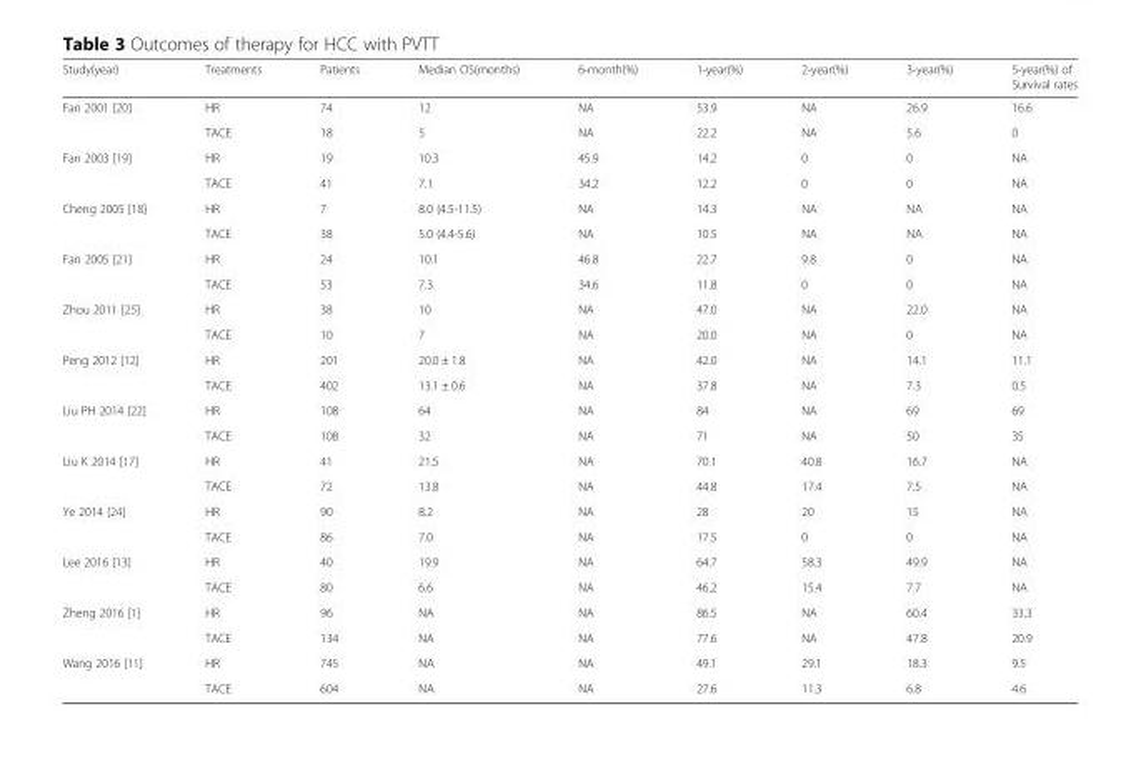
<table><thead><tr><td>Study(year)</td><td>Treatments</td><td>Patients</td><td>Median OS(months)</td><td>6-month(%)</td><td>1-year(%)</td><td>2-year(%)</td><td>3-year(%)</td><td>5-year(%) of Survival rates</td></tr></thead><tbody><tr><td rowspan="2">Fan 2001 [20]</td><td>HR</td><td>74</td><td>12</td><td>NA</td><td>53.9</td><td>NA</td><td>26.9</td><td>16.6</td></tr><tr><td>TACE</td><td>18</td><td>5</td><td>NA</td><td>22.2</td><td>NA</td><td>5.6</td><td>0</td></tr><tr><td rowspan="2">Fan 2003 [19]</td><td>HR</td><td>19</td><td>10.3</td><td>45.9</td><td>14.2</td><td>0</td><td>0</td><td>NA</td></tr><tr><td>TACE</td><td>41</td><td>7.1</td><td>34.2</td><td>12.2</td><td>0</td><td>0</td><td>NA</td></tr><tr><td rowspan="2">Cheng 2005 [18]</td><td>HR</td><td>7</td><td>8.0 (4.5-11.5)</td><td>NA</td><td>14.3</td><td>NA</td><td>NA</td><td>NA</td></tr><tr><td>TACE</td><td>38</td><td>5.0 (4.4-5.6)</td><td>NA</td><td>10.5</td><td>NA</td><td>NA</td><td>NA</td></tr><tr><td rowspan="2">Fan 2005 [21]</td><td>HR</td><td>24</td><td>10.1</td><td>46.8</td><td>22.7</td><td>9.8</td><td>0</td><td>NA</td></tr><tr><td>TACE</td><td>53</td><td>7.3</td><td>34.6</td><td>11.8</td><td>0</td><td>0</td><td>NA</td></tr><tr><td rowspan="2">Zhou 2011 [25]</td><td>HR</td><td>38</td><td>10</td><td>NA</td><td>47.0</td><td>NA</td><td>22.0</td><td>NA</td></tr><tr><td>TACE</td><td>10</td><td>7</td><td>NA</td><td>20.0</td><td>NA</td><td>0</td><td>NA</td></tr><tr><td rowspan="2">Peng 2012 [12]</td><td>HR</td><td>201</td><td>20.0 ± 1.8</td><td>NA</td><td>42.0</td><td>NA</td><td>14.1</td><td>11.1</td></tr><tr><td>TACE</td><td>402</td><td>13.1 ± 0.6</td><td>NA</td><td>37.8</td><td>NA</td><td>7.3</td><td>0.5</td></tr><tr><td rowspan="2">Liu PH 2014 [22]</td><td>HR</td><td>108</td><td>64</td><td>NA</td><td>84</td><td>NA</td><td>69</td><td>69</td></tr><tr><td>TACE</td><td>108</td><td>32</td><td>NA</td><td>71</td><td>NA</td><td>50</td><td>35</td></tr><tr><td rowspan="2">Liu K 2014 [17]</td><td>HR</td><td>41</td><td>21.5</td><td>NA</td><td>70.1</td><td>40.8</td><td>16.7</td><td>NA</td></tr><tr><td>TACE</td><td>72</td><td>13.8</td><td>NA</td><td>44.8</td><td>17.4</td><td>7.5</td><td>NA</td></tr><tr><td rowspan="2">Ye 2014 [24]</td><td>HR</td><td>90</td><td>8.2</td><td>NA</td><td>28</td><td>20</td><td>15</td><td>NA</td></tr><tr><td>TACE</td><td>86</td><td>7.0</td><td>NA</td><td>17.5</td><td>0</td><td>0</td><td>NA</td></tr><tr><td rowspan="2">Lee 2016 [13]</td><td>HR</td><td>40</td><td>19.9</td><td>NA</td><td>64.7</td><td>58.3</td><td>49.9</td><td>NA</td></tr><tr><td>TACE</td><td>80</td><td>6.6</td><td>NA</td><td>46.2</td><td>15.4</td><td>7.7</td><td>NA</td></tr><tr><td rowspan="2">Zheng 2016 [1]</td><td>HR</td><td>96</td><td>NA</td><td>NA</td><td>86.5</td><td>NA</td><td>60.4</td><td>33.3</td></tr><tr><td>TACE</td><td>134</td><td>NA</td><td>NA</td><td>77.6</td><td>NA</td><td>47.8</td><td>20.9</td></tr><tr><td rowspan="2">Wang 2016 [11]</td><td>HR</td><td>745</td><td>NA</td><td>NA</td><td>49.1</td><td>29.1</td><td>18.3</td><td>9.5</td></tr><tr><td>TACE</td><td>604</td><td>NA</td><td>NA</td><td>27.6</td><td>11.3</td><td>6.8</td><td>4.6</td></tr></tbody></table>